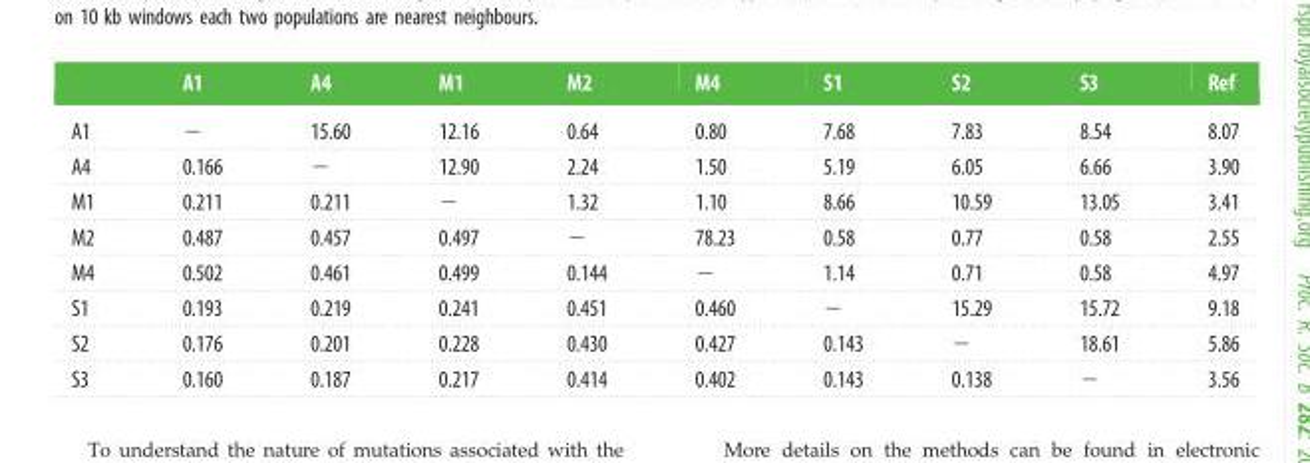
<table><thead><tr><td></td><td>A1</td><td>A4</td><td>M1</td><td>M2</td><td>M4</td><td>S1</td><td>S2</td><td>S3</td><td>Ref</td></tr></thead><tbody><tr><td>A1</td><td>−</td><td>15.60</td><td>12.16</td><td>0.64</td><td>0.80</td><td>7.68</td><td>7.83</td><td>8.54</td><td>8.07</td></tr><tr><td>A4</td><td>0.166</td><td>−</td><td>12.90</td><td>2.24</td><td>1.50</td><td>5.19</td><td>6.05</td><td>6.66</td><td>3.90</td></tr><tr><td>M1</td><td>0.211</td><td>0.211</td><td>−</td><td>1.32</td><td>1.10</td><td>8.66</td><td>10.59</td><td>13.05</td><td>3.41</td></tr><tr><td>M2</td><td>0.487</td><td>0.457</td><td>0.497</td><td>−</td><td>78.23</td><td>0.58</td><td>0.77</td><td>0.58</td><td>2.55</td></tr><tr><td>M4</td><td>0.502</td><td>0.461</td><td>0.499</td><td>0.144</td><td>−</td><td>1.14</td><td>0.71</td><td>0.58</td><td>4.97</td></tr><tr><td>S1</td><td>0.193</td><td>0.219</td><td>0.241</td><td>0.451</td><td>0.460</td><td>−</td><td>15.29</td><td>15.72</td><td>9.18</td></tr><tr><td>S2</td><td>0.176</td><td>0.201</td><td>0.228</td><td>0.430</td><td>0.427</td><td>0.143</td><td>−</td><td>18.61</td><td>5.86</td></tr><tr><td>S3</td><td>0.160</td><td>0.187</td><td>0.217</td><td>0.414</td><td>0.402</td><td>0.143</td><td>0.138</td><td>−</td><td>3.56</td></tr></tbody></table>